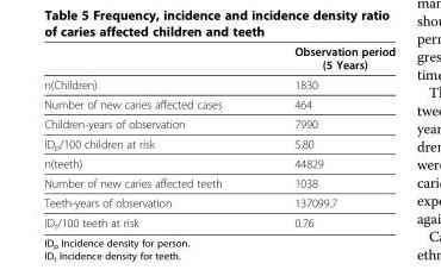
<table><thead><tr><td></td><td>Observation period (5 Years)</td></tr></thead><tbody><tr><td>n(Children)</td><td>1830</td></tr><tr><td>Number of new caries affected cases</td><td>464</td></tr><tr><td>Children-years of observation</td><td>7990</td></tr><tr><td>ID<sub>p</sub>/100 children at risk</td><td>5.80</td></tr><tr><td>n(teeth)</td><td>44829</td></tr><tr><td>Number of new caries affected teeth</td><td>1038</td></tr><tr><td>Teeth-years of observation</td><td>137099.7</td></tr><tr><td>ID<sub>t</sub>/100 teeth at risk</td><td>0.76</td></tr></tbody></table>